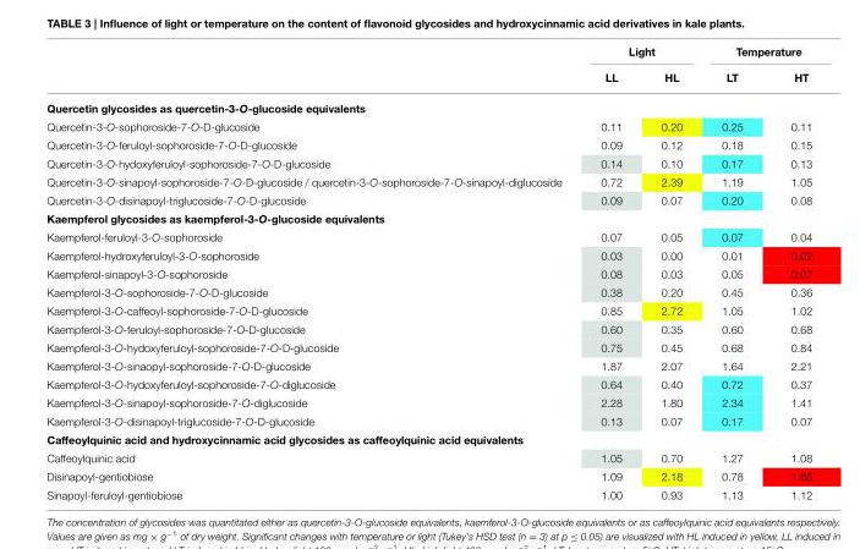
<table><thead><tr><td rowspan="2"></td><td colspan="2">Light</td><td colspan="2">Temperature</td></tr><tr><td>LL</td><td>HL</td><td>LT</td><td>HT</td></tr></thead><tbody><tr><td colspan="5">Quercetin glycosides as quercetin-3-O-glucoside equivalents</td></tr><tr><td>Quercetin-3-O-sophoroside-7-O-D-glucoside</td><td>0.11</td><td>0.20</td><td>0.25</td><td>0.11</td></tr><tr><td>Quercetin-3-O-feruloyl-sophoroside-7-O-D-glucoside</td><td>0.09</td><td>0.12</td><td>0.18</td><td>0.15</td></tr><tr><td>Quercetin-3-O-hydoxyferuloyl-sophoroside-7-O-D-glucoside</td><td>0.14</td><td>0.10</td><td>0.17</td><td>0.13</td></tr><tr><td>Quercetin-3-O-sinapoyl-sophoroside-7-O-D-glucoside / quercetin-3-O-sophoroside-7-O-sinapoyl-diglucoside</td><td>0.72</td><td>2.39</td><td>1.19</td><td>1.05</td></tr><tr><td>Quercetin-3-O-disinapoyl-triglucoside-7-O-D-glucoside</td><td>0.09</td><td>0.07</td><td>0.20</td><td>0.08</td></tr><tr><td colspan="5">Kaempferol glycosides as kaempferol-3-O-glucoside equivalents</td></tr><tr><td>Kaempferol-feruloyl-3-O-sophoroside</td><td>0.07</td><td>0.05</td><td>0.07</td><td>0.04</td></tr><tr><td>Kaempferol-hydroxyferuloyl-3-O-sophoroside</td><td>0.03</td><td>0.00</td><td>0.01</td><td>0.02</td></tr><tr><td>Kaempferol-sinapoyl-3-O-sophoroside</td><td>0.08</td><td>0.03</td><td>0.05</td><td>0.07</td></tr><tr><td>Kaempferol-3-O-sophoroside-7-O-D-glucoside</td><td>0.38</td><td>0.20</td><td>0.45</td><td>0.36</td></tr><tr><td>Kaempferol-3-O-caffeoyl-sophoroside-7-O-D-glucoside</td><td>0.85</td><td>2.72</td><td>1.05</td><td>1.02</td></tr><tr><td>Kaempferol-3-O-feruloyl-sophoroside-7-O-D-glucoside</td><td>0.60</td><td>0.35</td><td>0.60</td><td>0.68</td></tr><tr><td>Kaempferol-3-O-hydoxyferuloyl-sophoroside-7-O-D-glucoside</td><td>0.75</td><td>0.45</td><td>0.68</td><td>0.84</td></tr><tr><td>Kaempferol-3-O-sinaopyl-sophoroside-7-O-D-glucoside</td><td>1.87</td><td>2.07</td><td>1.64</td><td>2.21</td></tr><tr><td>Kaempferol-3-O-hydoxyferuloyl-sophoroside-7-O-diglucoside</td><td>0.64</td><td>0.40</td><td>0.72</td><td>0.37</td></tr><tr><td>Kaempferol-3-O-sinapoyl-sophoroside-7-O-diglucoside</td><td>2.28</td><td>1.80</td><td>2.34</td><td>1.41</td></tr><tr><td>Kaempferol-3-O-disinapoyl-triglucoside-7-O-D-glucoside</td><td>0.13</td><td>0.07</td><td>0.17</td><td>0.07</td></tr><tr><td colspan="5">Caffeoylquinic acid and hydroxycinnamic acid glycosides as caffeoylquinic acid equivalents</td></tr><tr><td>Caffeoylquinic acid</td><td>1.05</td><td>0.70</td><td>1.27</td><td>1.08</td></tr><tr><td>Disinapoyl-gentiobiose</td><td>1.09</td><td>2.18</td><td>0.78</td><td>1.65</td></tr><tr><td>Sinapoyl-feruloyl-gentiobiose</td><td>1.00</td><td>0.93</td><td>1.13</td><td>1.12</td></tr></tbody></table>